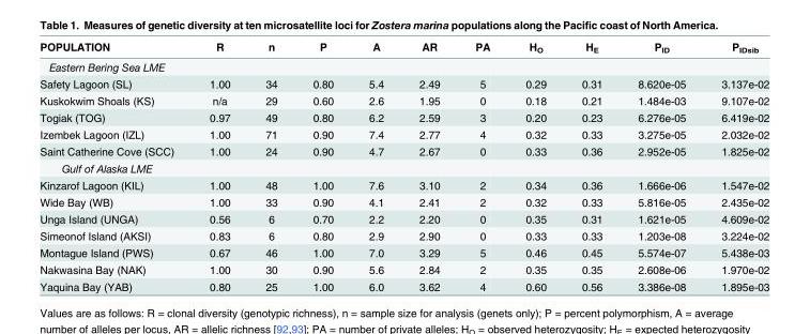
<table><thead><tr><td>POPULATION</td><td>R</td><td>n</td><td>P</td><td>A</td><td>AR</td><td>PA</td><td>H<sub>O</sub></td><td>H<sub>E</sub></td><td>P<sub>ID</sub></td><td>P<sub>IDsib</sub></td></tr></thead><tbody><tr><td colspan="11">Eastern Bering Sea LME</td></tr><tr><td>Safety Lagoon (SL)</td><td>1.00</td><td>34</td><td>0.80</td><td>5.4</td><td>2.49</td><td>5</td><td>0.29</td><td>0.31</td><td>8.620e-05</td><td>3.137e-02</td></tr><tr><td>Kuskokwim Shoals (KS)</td><td>n/a</td><td>29</td><td>0.60</td><td>2.6</td><td>1.95</td><td>0</td><td>0.18</td><td>0.21</td><td>1.484e-03</td><td>9.107e-02</td></tr><tr><td>Togiak (TOG)</td><td>0.97</td><td>49</td><td>0.80</td><td>6.2</td><td>2.59</td><td>3</td><td>0.20</td><td>0.23</td><td>6.276e-05</td><td>6.419e-02</td></tr><tr><td>Izembek Lagoon (IZL)</td><td>1.00</td><td>71</td><td>0.90</td><td>7.4</td><td>2.77</td><td>4</td><td>0.32</td><td>0.33</td><td>3.275e-05</td><td>2.032e-02</td></tr><tr><td>Saint Catherine Cove (SCC)</td><td>1.00</td><td>24</td><td>0.90</td><td>4.7</td><td>2.67</td><td>0</td><td>0.33</td><td>0.36</td><td>2.952e-05</td><td>1.825e-02</td></tr><tr><td colspan="11">Gulf of Alaska LME</td></tr><tr><td>Kinzarof Lagoon (KIL)</td><td>1.00</td><td>48</td><td>1.00</td><td>7.6</td><td>3.10</td><td>2</td><td>0.34</td><td>0.36</td><td>1.666e-06</td><td>1.547e-02</td></tr><tr><td>Wide Bay (WB)</td><td>1.00</td><td>33</td><td>0.90</td><td>4.1</td><td>2.41</td><td>2</td><td>0.32</td><td>0.33</td><td>5.816e-05</td><td>2.435e-02</td></tr><tr><td>Unga Island (UNGA)</td><td>0.56</td><td>6</td><td>0.70</td><td>2.2</td><td>2.20</td><td>0</td><td>0.35</td><td>0.31</td><td>1.621e-05</td><td>4.609e-02</td></tr><tr><td>Simeonof Island (AKSI)</td><td>0.83</td><td>6</td><td>0.80</td><td>2.9</td><td>2.90</td><td>0</td><td>0.33</td><td>0.33</td><td>1.203e-08</td><td>3.224e-02</td></tr><tr><td>Montague Island (PWS)</td><td>0.67</td><td>46</td><td>1.00</td><td>7.0</td><td>3.29</td><td>5</td><td>0.46</td><td>0.45</td><td>5.574e-07</td><td>5.438e-03</td></tr><tr><td>Nakwasina Bay (NAK)</td><td>1.00</td><td>30</td><td>0.90</td><td>5.6</td><td>2.84</td><td>2</td><td>0.35</td><td>0.35</td><td>2.608e-06</td><td>1.970e-02</td></tr><tr><td>Yaquina Bay (YAB)</td><td>0.80</td><td>25</td><td>1.00</td><td>6.0</td><td>3.62</td><td>4</td><td>0.60</td><td>0.56</td><td>3.386e-08</td><td>1.895e-03</td></tr></tbody></table>